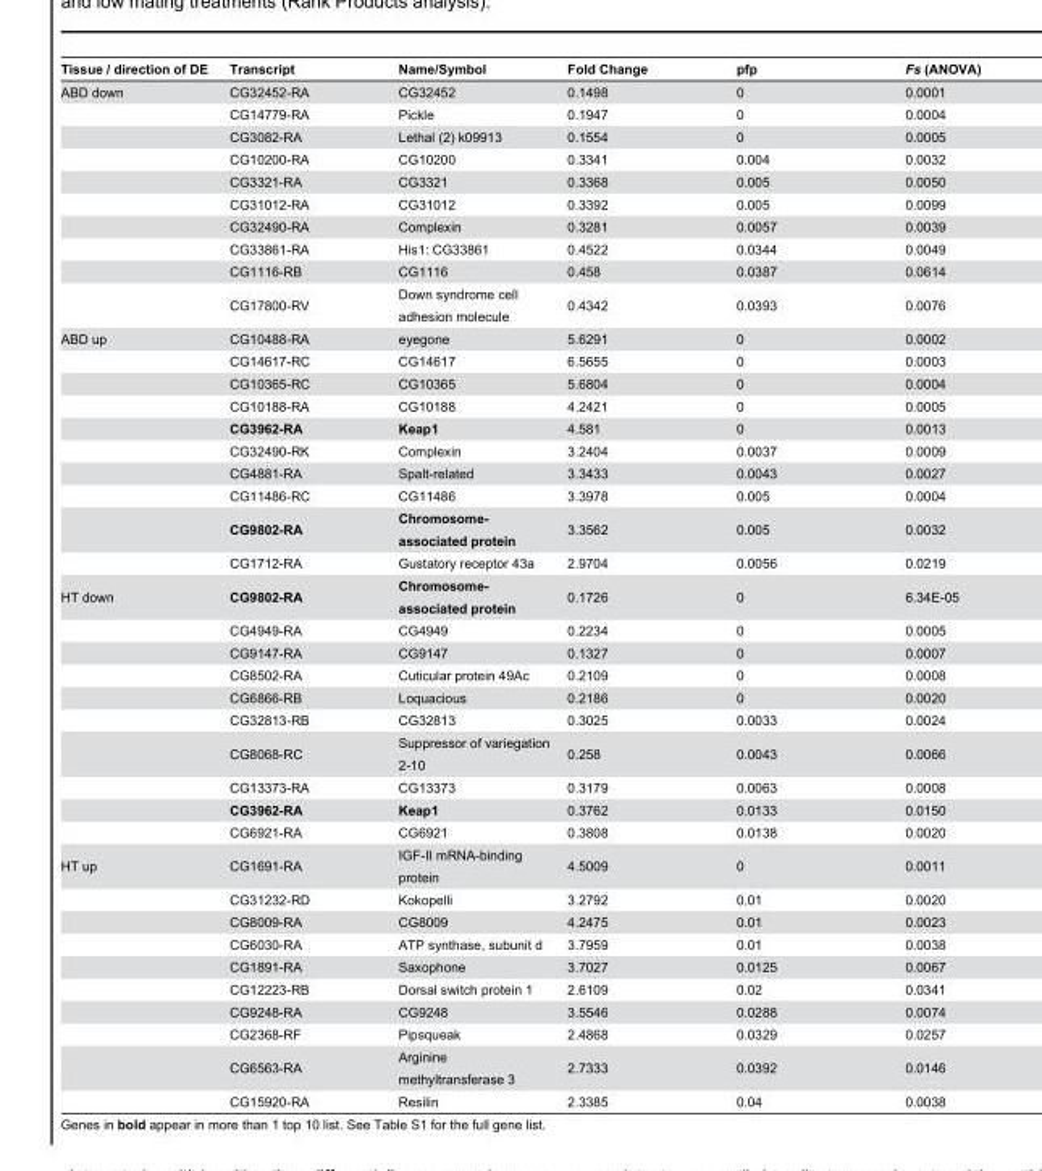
<table><thead><tr><td>Tissue / direction of DE</td><td>Transcript</td><td>Name/Symbol</td><td>Fold Change</td><td>pfp</td><td>Fs (ANOVA)</td></tr></thead><tbody><tr><td rowspan="10">ABD down</td><td>CG32452-RA</td><td>CG32452</td><td>0.1498</td><td>0</td><td>0.0001</td></tr><tr><td>CG14779-RA</td><td>Pickle</td><td>0.1947</td><td>0</td><td>0.0004</td></tr><tr><td>CG3082-RA</td><td>Lethal (2) k09913</td><td>0.1554</td><td>0</td><td>0.0005</td></tr><tr><td>CG10200-RA</td><td>CG10200</td><td>0.3341</td><td>0.004</td><td>0.0032</td></tr><tr><td>CG3321-RA</td><td>CG3321</td><td>0.3368</td><td>0.005</td><td>0.0050</td></tr><tr><td>CG31012-RA</td><td>CG31012</td><td>0.3392</td><td>0.005</td><td>0.0099</td></tr><tr><td>CG32490-RA</td><td>Complexin</td><td>0.3281</td><td>0.0057</td><td>0.0039</td></tr><tr><td>CG33861-RA</td><td>His1: CG33861</td><td>0.4522</td><td>0.0344</td><td>0.0049</td></tr><tr><td>CG1116-RB</td><td>CG1116</td><td>0.458</td><td>0.0387</td><td>0.0614</td></tr><tr><td>CG17800-RV</td><td>Down syndrome cell adhesion molecule</td><td>0.4342</td><td>0.0393</td><td>0.0076</td></tr><tr><td rowspan="10">ABD up</td><td>CG10488-RA</td><td>eyegone</td><td>5.6291</td><td>0</td><td>0.0002</td></tr><tr><td>CG14617-RC</td><td>CG14617</td><td>6.5655</td><td>0</td><td>0.0003</td></tr><tr><td>CG10365-RC</td><td>CG10365</td><td>5.6804</td><td>0</td><td>0.0004</td></tr><tr><td>CG10188-RA</td><td>CG10188</td><td>4.2421</td><td>0</td><td>0.0005</td></tr><tr><td>CG3962-RA</td><td>Keap1</td><td>4.581</td><td>0</td><td>0.0013</td></tr><tr><td>CG32490-RK</td><td>Complexin</td><td>3.2404</td><td>0.0037</td><td>0.0009</td></tr><tr><td>CG4881-RA</td><td>Spalt-related</td><td>3.3433</td><td>0.0043</td><td>0.0027</td></tr><tr><td>CG11486-RC</td><td>CG11486</td><td>3.3978</td><td>0.005</td><td>0.0004</td></tr><tr><td>CG9802-RA</td><td>Chromosome- associated protein</td><td>3.3562</td><td>0.005</td><td>0.0032</td></tr><tr><td>CG1712-RA</td><td>Gustatory receptor 43a</td><td>2.9704</td><td>0.0056</td><td>0.0219</td></tr><tr><td rowspan="10">HT down</td><td>CG9802-RA</td><td>Chromosome- associated protein</td><td>0.1726</td><td>0</td><td>6.34E-05</td></tr><tr><td>CG4949-RA</td><td>CG4949</td><td>0.2234</td><td>0</td><td>0.0005</td></tr><tr><td>CG9147-RA</td><td>CG9147</td><td>0.1327</td><td>0</td><td>0.0007</td></tr><tr><td>CG8502-RA</td><td>Cuticular protein 49Ac</td><td>0.2109</td><td>0</td><td>0.0008</td></tr><tr><td>CG6866-RB</td><td>Loquacious</td><td>0.2186</td><td>0</td><td>0.0020</td></tr><tr><td>CG32813-RB</td><td>CG32813</td><td>0.3025</td><td>0.0033</td><td>0.0024</td></tr><tr><td>CG8068-RC</td><td>Suppressor of variegation 2-10</td><td>0.258</td><td>0.0043</td><td>0.0066</td></tr><tr><td>CG13373-RA</td><td>CG13373</td><td>0.3179</td><td>0.0063</td><td>0.0008</td></tr><tr><td>CG3962-RA</td><td>Keap1</td><td>0.3762</td><td>0.0133</td><td>0.0150</td></tr><tr><td>CG6921-RA</td><td>CG6921</td><td>0.3808</td><td>0.0138</td><td>0.0020</td></tr><tr><td rowspan="10">HT up</td><td>CG1691-RA</td><td>IGF-II mRNA-binding protein</td><td>4.5009</td><td>0</td><td>0.0011</td></tr><tr><td>CG31232-RD</td><td>Kokopelli</td><td>3.2792</td><td>0.01</td><td>0.0020</td></tr><tr><td>CG8009-RA</td><td>CG8009</td><td>4.2475</td><td>0.01</td><td>0.0023</td></tr><tr><td>CG6030-RA</td><td>ATP synthase, subunit d</td><td>3.7959</td><td>0.01</td><td>0.0038</td></tr><tr><td>CG1891-RA</td><td>Saxophone</td><td>3.7027</td><td>0.0125</td><td>0.0067</td></tr><tr><td>CG12223-RB</td><td>Dorsal switch protein 1</td><td>2.6109</td><td>0.02</td><td>0.0341</td></tr><tr><td>CG9248-RA</td><td>CG9248</td><td>3.5546</td><td>0.0288</td><td>0.0074</td></tr><tr><td>CG2368-RF</td><td>Pipsqueak</td><td>2.4868</td><td>0.0329</td><td>0.0257</td></tr><tr><td>CG6563-RA</td><td>Arginine methyltransferase 3</td><td>2.7333</td><td>0.0392</td><td>0.0146</td></tr><tr><td>CG15920-RA</td><td>Resilin</td><td>2.3385</td><td>0.04</td><td>0.0038</td></tr></tbody></table>